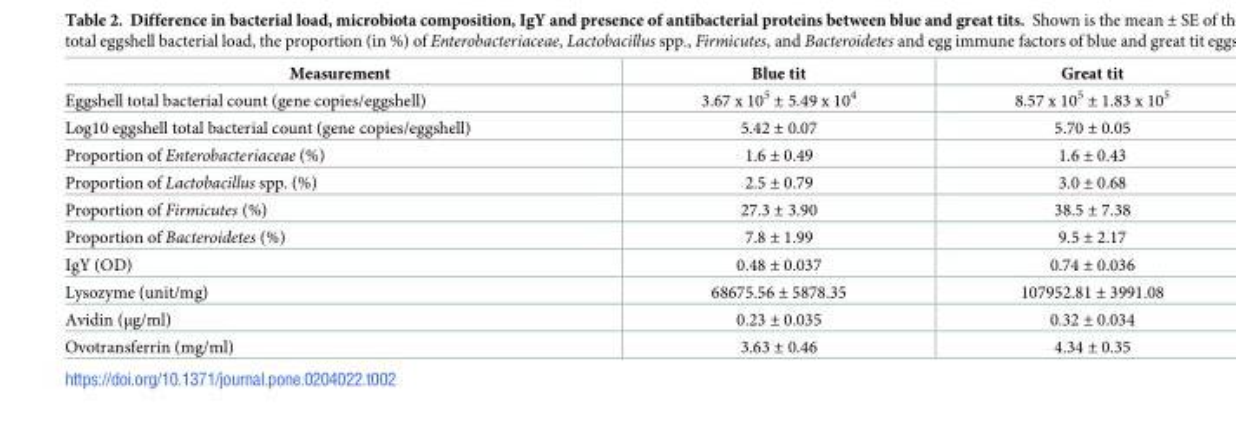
<table><thead><tr><td>Measurement</td><td>Blue tit</td><td>Great tit</td></tr></thead><tbody><tr><td>Eggshell total bacterial count (gene copies/eggshell)</td><td>3.67 x 10<sup>5</sup> ± 5.49 x 10<sup>4</sup></td><td>8.57 x 10<sup>5</sup> ± 1.83 x 10<sup>5</sup></td></tr><tr><td>Log10 eggshell total bacterial count (gene copies/eggshell)</td><td>5.42 ± 0.07</td><td>5.70 ± 0.05</td></tr><tr><td>Proportion of Enterobacteriaceae (%)</td><td>1.6 ± 0.49</td><td>1.6 ± 0.43</td></tr><tr><td>Proportion of Lactobacillus spp. (%)</td><td>2.5 ± 0.79</td><td>3.0 ± 0.68</td></tr><tr><td>Proportion of Firmicutes (%)</td><td>27.3 ± 3.90</td><td>38.5 ± 7.38</td></tr><tr><td>Proportion of Bacteroidetes (%)</td><td>7.8 ± 1.99</td><td>9.5 ± 2.17</td></tr><tr><td>IgY (OD)</td><td>0.48 ± 0.037</td><td>0.74 ± 0.036</td></tr><tr><td>Lysozyme (unit/mg)</td><td>68675.56 ± 5878.35</td><td>107952.81 ± 3991.08</td></tr><tr><td>Avidin (μg/ml)</td><td>0.23 ± 0.035</td><td>0.32 ± 0.034</td></tr><tr><td>Ovotransferrin (mg/ml)</td><td>3.63 ± 0.46</td><td>4.34 ± 0.35</td></tr></tbody></table>